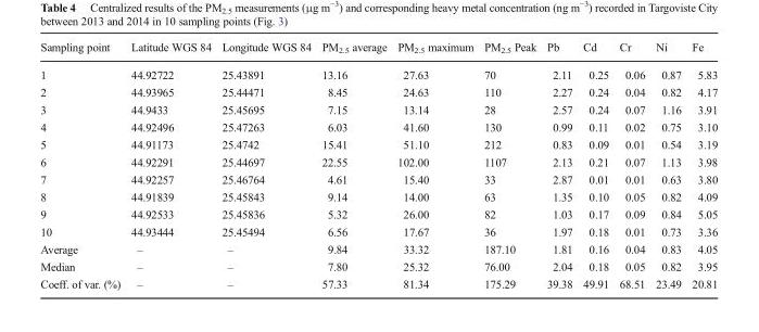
<table><thead><tr><td>Sampling point</td><td>Latitude WGS 84</td><td>Longitude WGS 84</td><td>PM<sub>2.5</sub> average</td><td>PM<sub>2.5</sub> maximum</td><td>PM<sub>2.5</sub> Peak</td><td>Pb</td><td>Cd</td><td>Cr</td><td>Ni</td><td>Fe</td></tr></thead><tbody><tr><td>1</td><td>44.92722</td><td>25.43891</td><td>13.16</td><td>27.63</td><td>70</td><td>2.11</td><td>0.25</td><td>0.06</td><td>0.87</td><td>5.83</td></tr><tr><td>2</td><td>44.93965</td><td>25.44471</td><td>8.45</td><td>24.63</td><td>110</td><td>2.27</td><td>0.24</td><td>0.04</td><td>0.82</td><td>4.17</td></tr><tr><td>3</td><td>44.9433</td><td>25.45695</td><td>7.15</td><td>13.14</td><td>28</td><td>2.57</td><td>0.24</td><td>0.07</td><td>1.16</td><td>3.91</td></tr><tr><td>4</td><td>44.92496</td><td>25.47263</td><td>6.03</td><td>41.60</td><td>130</td><td>0.99</td><td>0.11</td><td>0.02</td><td>0.75</td><td>3.10</td></tr><tr><td>5</td><td>44.91173</td><td>25.4742</td><td>15.41</td><td>51.10</td><td>212</td><td>0.83</td><td>0.09</td><td>0.01</td><td>0.54</td><td>3.19</td></tr><tr><td>6</td><td>44.92291</td><td>25.44697</td><td>22.55</td><td>102.00</td><td>1107</td><td>2.13</td><td>0.21</td><td>0.07</td><td>1.13</td><td>3.98</td></tr><tr><td>7</td><td>44.92257</td><td>25.46764</td><td>4.61</td><td>15.40</td><td>33</td><td>2.87</td><td>0.01</td><td>0.01</td><td>0.63</td><td>3.80</td></tr><tr><td>8</td><td>44.91839</td><td>25.45843</td><td>9.14</td><td>14.00</td><td>63</td><td>1.35</td><td>0.10</td><td>0.05</td><td>0.82</td><td>4.09</td></tr><tr><td>9</td><td>44.92533</td><td>25.45836</td><td>5.32</td><td>26.00</td><td>82</td><td>1.03</td><td>0.17</td><td>0.09</td><td>0.84</td><td>5.05</td></tr><tr><td>10</td><td>44.93444</td><td>25.45494</td><td>6.56</td><td>17.67</td><td>36</td><td>1.97</td><td>0.18</td><td>0.01</td><td>0.73</td><td>3.36</td></tr><tr><td>Average</td><td>–</td><td>–</td><td>9.84</td><td>33.32</td><td>187.10</td><td>1.81</td><td>0.16</td><td>0.04</td><td>0.83</td><td>4.05</td></tr><tr><td>Median</td><td>–</td><td>–</td><td>7.80</td><td>25.32</td><td>76.00</td><td>2.04</td><td>0.18</td><td>0.05</td><td>0.82</td><td>3.95</td></tr><tr><td>Coeff. of var. (%)</td><td>–</td><td>–</td><td>57.33</td><td>81.34</td><td>175.29</td><td>39.38</td><td>49.91</td><td>68.51</td><td>23.49</td><td>20.81</td></tr></tbody></table>